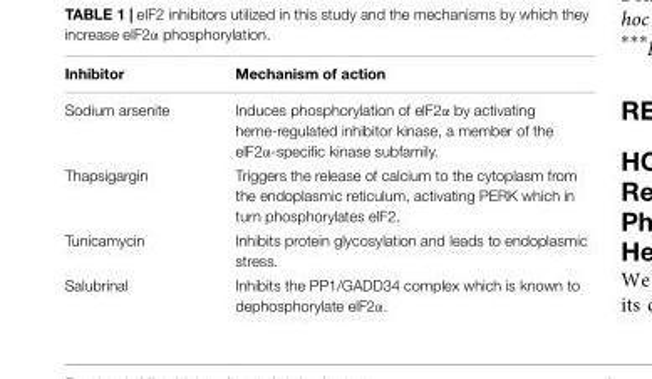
<table><thead><tr><td>Inhibitor</td><td>Mechanism of action</td></tr></thead><tbody><tr><td>Sodium arsenite</td><td>Induces phosphorylation of elF2α by activating heme-regulated inhibitor kinase, a member of the elF2α-specific kinase subfamily.</td></tr><tr><td>Thapsigargin</td><td>Triggers the release of calcium to the cytoplasm from the endoplasmic reticulum, activating PERK which in turn phosphorylates elF2.</td></tr><tr><td>Tunicamycin</td><td>Inhibits protein glycosylation and leads to endoplasmic stress.</td></tr><tr><td>Salubrinal</td><td>Inhibits the PP1/GADD34 complex which is known to dephosphorylate elF2α.</td></tr></tbody></table>